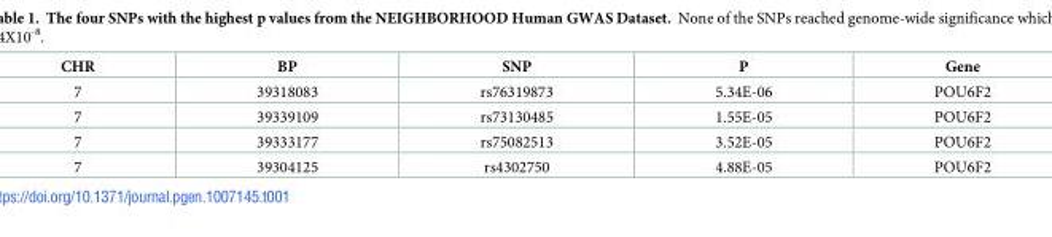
<table><thead><tr><td>CHR</td><td>BP</td><td>SNP</td><td>P</td><td>Gene</td></tr></thead><tbody><tr><td>7</td><td>39318083</td><td>rs76319873</td><td>5.34E-06</td><td>POU6F2</td></tr><tr><td>7</td><td>39339109</td><td>rs73130485</td><td>1.55E-05</td><td>POU6F2</td></tr><tr><td>7</td><td>39333177</td><td>rs75082513</td><td>3.52E-05</td><td>POU6F2</td></tr><tr><td>7</td><td>39304125</td><td>rs4302750</td><td>4.88E-05</td><td>POU6F2</td></tr></tbody></table>